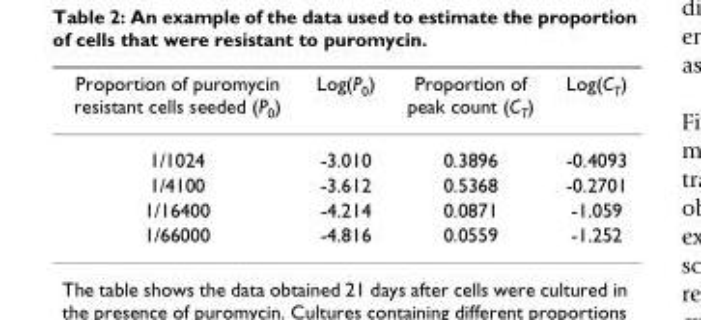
<table><thead><tr><td>Proportion of puromycin resistant cells seeded (P<sub>0</sub>)</td><td>Log(P<sub>0</sub>)</td><td>Proportion of peak count (C<sub>T</sub>)</td><td>Log(C<sub>T</sub>)</td></tr></thead><tbody><tr><td>1/1024</td><td>-3.010</td><td>0.3896</td><td>-0.4093</td></tr><tr><td>1/4100</td><td>-3.612</td><td>0.5368</td><td>-0.2701</td></tr><tr><td>1/16400</td><td>-4.214</td><td>0.0871</td><td>-1.059</td></tr><tr><td>1/66000</td><td>-4.816</td><td>0.0559</td><td>-1.252</td></tr></tbody></table>